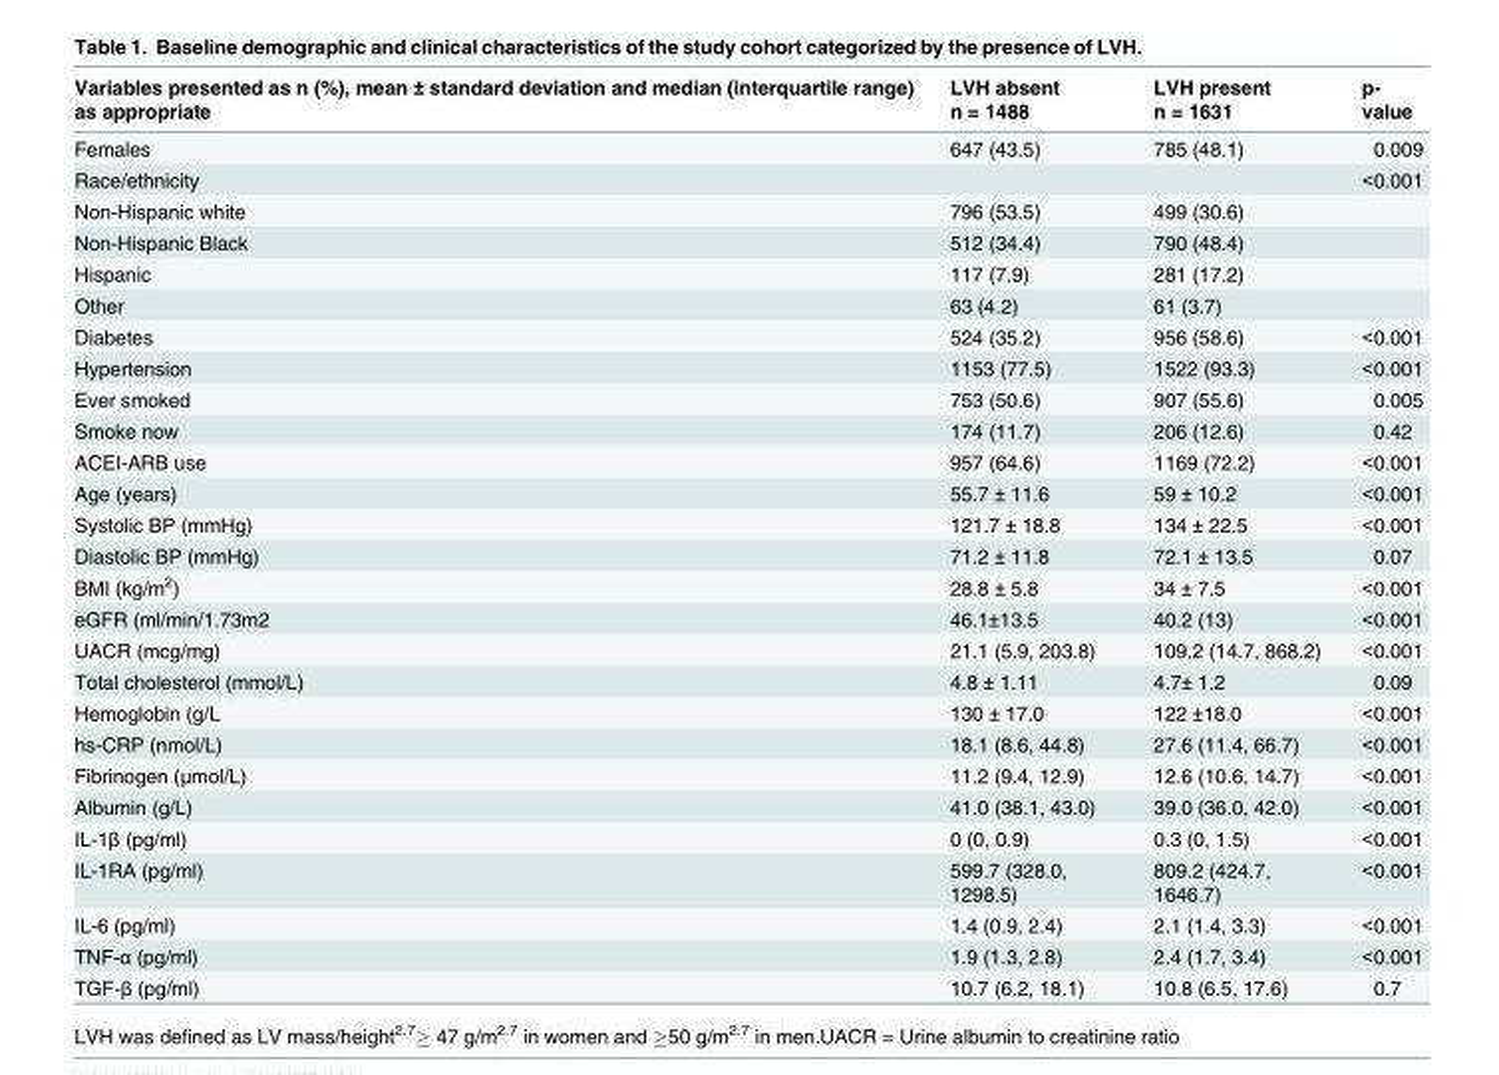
<table><thead><tr><td>Variables presented as n (%), mean ± standard deviation and median (interquartile range) as appropriate</td><td>LVH absent n = 1488</td><td>LVH present n = 1631</td><td>p- value</td></tr></thead><tbody><tr><td>Females</td><td>647 (43.5)</td><td>785 (48.1)</td><td>0.009</td></tr><tr><td>Race/ethnicity</td><td></td><td></td><td>&lt;0.001</td></tr><tr><td>Non-Hispanic white</td><td>796 (53.5)</td><td>499 (30.6)</td><td></td></tr><tr><td>Non-Hispanic Black</td><td>512 (34.4)</td><td>790 (48.4)</td><td></td></tr><tr><td>Hispanic</td><td>117 (7.9)</td><td>281 (17.2)</td><td></td></tr><tr><td>Other</td><td>63 (4.2)</td><td>61 (3.7)</td><td></td></tr><tr><td>Diabetes</td><td>524 (35.2)</td><td>956 (58.6)</td><td>&lt;0.001</td></tr><tr><td>Hypertension</td><td>1153 (77.5)</td><td>1522 (93.3)</td><td>&lt;0.001</td></tr><tr><td>Ever smoked</td><td>753 (50.6)</td><td>907 (55.6)</td><td>0.005</td></tr><tr><td>Smoke now</td><td>174 (11.7)</td><td>206 (12.6)</td><td>0.42</td></tr><tr><td>ACEI-ARB use</td><td>957 (64.6)</td><td>1169 (72.2)</td><td>&lt;0.001</td></tr><tr><td>Age (years)</td><td>55.7 ± 11.6</td><td>59 ± 10.2</td><td>&lt;0.001</td></tr><tr><td>Systolic BP (mmHg)</td><td>121.7 ± 18.8</td><td>134 ± 22.5</td><td>&lt;0.001</td></tr><tr><td>Diastolic BP (mmHg)</td><td>71.2 ± 11.8</td><td>72.1 ± 13.5</td><td>0.07</td></tr><tr><td>BMI (kg/m<sup>2</sup>)</td><td>28.8 ± 5.8</td><td>34 ± 7.5</td><td>&lt;0.001</td></tr><tr><td>eGFR (ml/min/1.73m2</td><td>46.1±13.5</td><td>40.2 (13)</td><td>&lt;0.001</td></tr><tr><td>UACR (mcg/mg)</td><td>21.1 (5.9, 203.8)</td><td>109.2 (14.7, 868.2)</td><td>&lt;0.001</td></tr><tr><td>Total cholesterol (mmol/L)</td><td>4.8 ± 1.11</td><td>4.7± 1.2</td><td>0.09</td></tr><tr><td>Hemoglobin (g/L</td><td>130 ± 17.0</td><td>122 ±18.0</td><td>&lt;0.001</td></tr><tr><td>hs-CRP (nmol/L)</td><td>18.1 (8.6, 44.8)</td><td>27.6 (11.4, 66.7)</td><td>&lt;0.001</td></tr><tr><td>Fibrinogen (μmol/L)</td><td>11.2 (9.4, 12.9)</td><td>12.6 (10.6, 14.7)</td><td>&lt;0.001</td></tr><tr><td>Albumin (g/L)</td><td>41.0 (38.1, 43.0)</td><td>39.0 (36.0, 42.0)</td><td>&lt;0.001</td></tr><tr><td>IL-1β (pg/ml)</td><td>0 (0, 0.9)</td><td>0.3 (0, 1.5)</td><td>&lt;0.001</td></tr><tr><td>IL-1RA (pg/ml)</td><td>599.7 (328.0, 1298.5)</td><td>809.2 (424.7, 1646.7)</td><td>&lt;0.001</td></tr><tr><td>IL-6 (pg/ml)</td><td>1.4 (0.9, 2.4)</td><td>2.1 (1.4, 3.3)</td><td>&lt;0.001</td></tr><tr><td>TNF-α (pg/ml)</td><td>1.9 (1.3, 2.8)</td><td>2.4 (1.7, 3.4)</td><td>&lt;0.001</td></tr><tr><td>TGF-β (pg/ml)</td><td>10.7 (6.2, 18.1)</td><td>10.8 (6.5, 17.6)</td><td>0.7</td></tr></tbody></table>